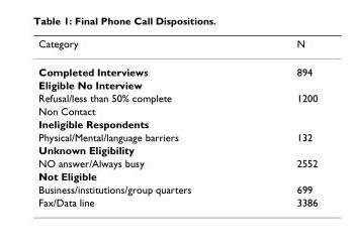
<table><thead><tr><td>Category</td><td>N</td></tr></thead><tbody><tr><td>Completed Interviews</td><td>894</td></tr><tr><td colspan="2">Eligible No Interview</td></tr><tr><td>Refusal/less than 50% complete</td><td>1200</td></tr><tr><td colspan="2">Non Contact</td></tr><tr><td colspan="2">Ineligible Respondents</td></tr><tr><td>Physical/Mental/language barriers</td><td>132</td></tr><tr><td colspan="2">Unknown Eligibility</td></tr><tr><td>NO answer/Always busy</td><td>2552</td></tr><tr><td colspan="2">Not Eligible</td></tr><tr><td>Business/institutions/group quarters</td><td>699</td></tr><tr><td>Fax/Data line</td><td>3386</td></tr></tbody></table>